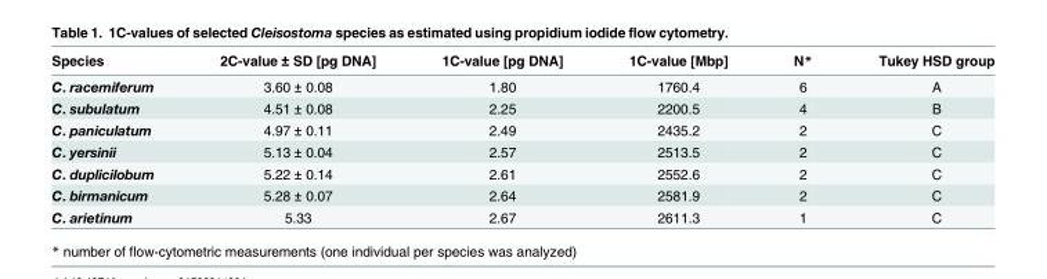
<table><thead><tr><td>Species</td><td>2C-value ± SD [pg DNA]</td><td>1C-value [pg DNA]</td><td>1C-value [Mbp]</td><td>N*</td><td>Tukey HSD group</td></tr></thead><tbody><tr><td>C. racemiferum</td><td>3.60 ± 0.08</td><td>1.80</td><td>1760.4</td><td>6</td><td>A</td></tr><tr><td>C. subulatum</td><td>4.51 ± 0.08</td><td>2.25</td><td>2200.5</td><td>4</td><td>B</td></tr><tr><td>C. paniculatum</td><td>4.97 ± 0.11</td><td>2.49</td><td>2435.2</td><td>2</td><td>C</td></tr><tr><td>C. yersinii</td><td>5.13 ± 0.04</td><td>2.57</td><td>2513.5</td><td>2</td><td>C</td></tr><tr><td>C. duplicilobum</td><td>5.22 ± 0.14</td><td>2.61</td><td>2552.6</td><td>2</td><td>C</td></tr><tr><td>C. birmanicum</td><td>5.28 ± 0.07</td><td>2.64</td><td>2581.9</td><td>2</td><td>C</td></tr><tr><td>C. arietinum</td><td>5.33</td><td>2.67</td><td>2611.3</td><td>1</td><td>C</td></tr></tbody></table>